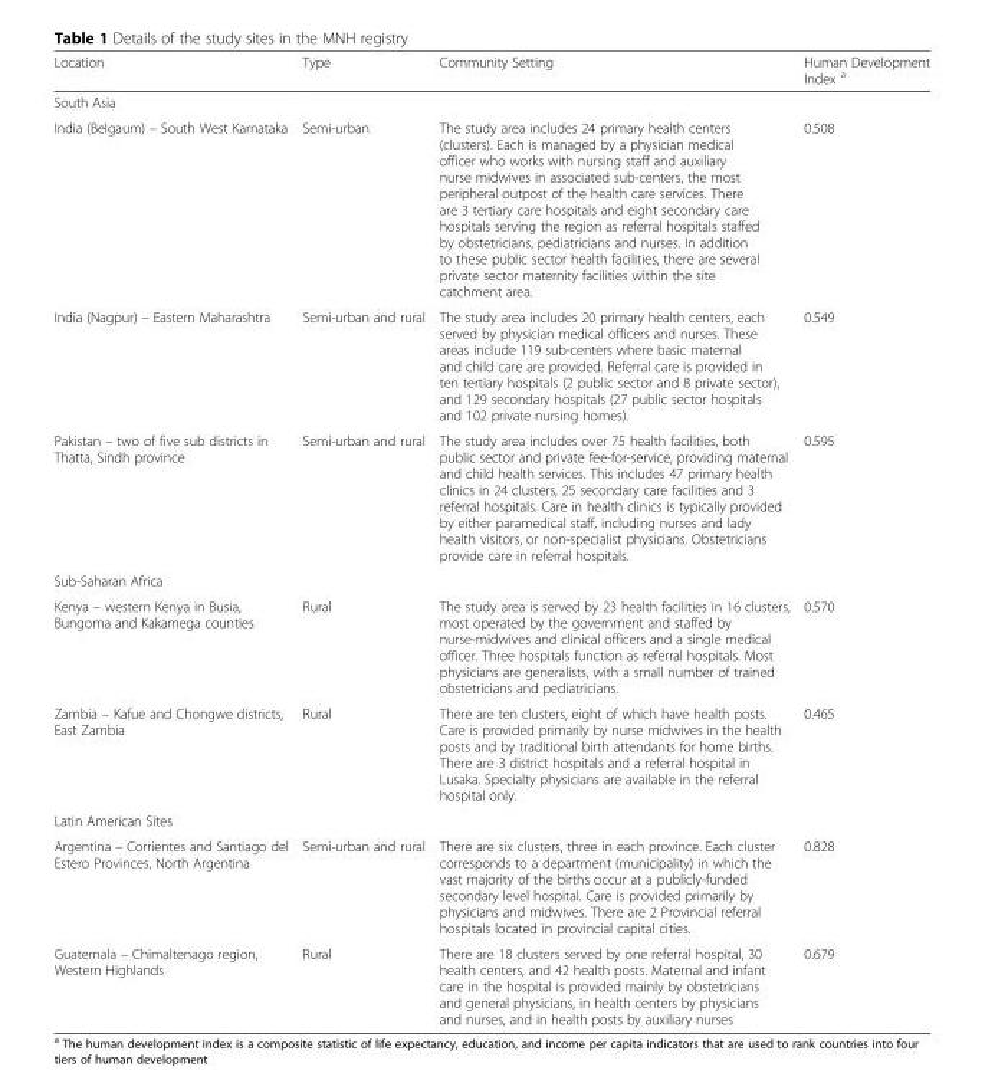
<table><thead><tr><td>Location</td><td>Type</td><td>Community Setting</td><td>Human Development Index <sup>a</sup></td></tr></thead><tbody><tr><td colspan="4">South Asia</td></tr><tr><td>India (Belgaum) – South West Karnataka</td><td>Semi-urban</td><td>The study area includes 24 primary health centers (clusters). Each is managed by a physician medical officer who works with nursing staff and auxiliary nurse midwives in associated sub-centers, the most peripheral outpost of the health care services. There are 3 tertiary care hospitals and eight secondary care hospitals serving the region as referral hospitals staffed by obstetricians, pediatricians and nurses. In addition to these public sector health facilities, there are several private sector maternity facilities within the site catchment area.</td><td>0.508</td></tr><tr><td>India (Nagpur) – Eastern Maharashtra</td><td>Semi-urban and rural</td><td>The study area includes 20 primary health centers, each served by physician medical officers and nurses. These areas include 119 sub-centers where basic maternal and child care are provided. Referral care is provided in ten tertiary hospitals (2 public sector and 8 private sector), and 129 secondary hospitals (27 public sector hospitals and 102 private nursing homes).</td><td>0.549</td></tr><tr><td>Pakistan – two of five sub districts in Thatta, Sindh province</td><td>Semi-urban and rural</td><td>The study area includes over 75 health facilities, both public sector and private fee-for-service, providing maternal and child health services. This includes 47 primary health clinics in 24 clusters, 25 secondary care facilities and 3 referral hospitals. Care in health clinics is typically provided by either paramedical staff, including nurses and lady health visitors, or non-specialist physicians. Obstetricians provide care in referral hospitals.</td><td>0.595</td></tr><tr><td colspan="4">Sub-Saharan Africa</td></tr><tr><td>Kenya – western Kenya in Busia, Bungoma and Kakamega counties</td><td>Rural</td><td>The study area is served by 23 health facilities in 16 clusters, most operated by the government and staffed by nurse-midwives and clinical officers and a single medical officer. Three hospitals function as referral hospitals. Most physicians are generalists, with a small number of trained obstetricians and pediatricians.</td><td>0.570</td></tr><tr><td>Zambia – Kafue and Chongwe districts, East Zambia</td><td>Rural</td><td>There are ten clusters, eight of which have health posts. Care is provided primarily by nurse midwives in the health posts and by traditional birth attendants for home births. There are 3 district hospitals and a referral hospital in Lusaka. Specialty physicians are available in the referral hospital only.</td><td>0.465</td></tr><tr><td colspan="4">Latin American Sites</td></tr><tr><td>Argentina – Corrientes and Santiago del Estero Provinces, North Argentina</td><td>Semi-urban and rural</td><td>There are six clusters, three in each province. Each cluster corresponds to a department (municipality) in which the vast majority of the births occur at a publicly-funded secondary level hospital. Care is provided primarily by physicians and midwives. There are 2 Provincial referral hospitals located in provincial capital cities.</td><td>0.828</td></tr><tr><td>Guatemala – Chimaltenago region, Western Highlands</td><td>Rural</td><td>There are 18 clusters served by one referral hospital, 30 health centers, and 42 health posts. Maternal and infant care in the hospital is provided mainly by obstetricians and general physicians, in health centers by physicians and nurses, and in health posts by auxiliary nurses</td><td>0.679</td></tr></tbody></table>